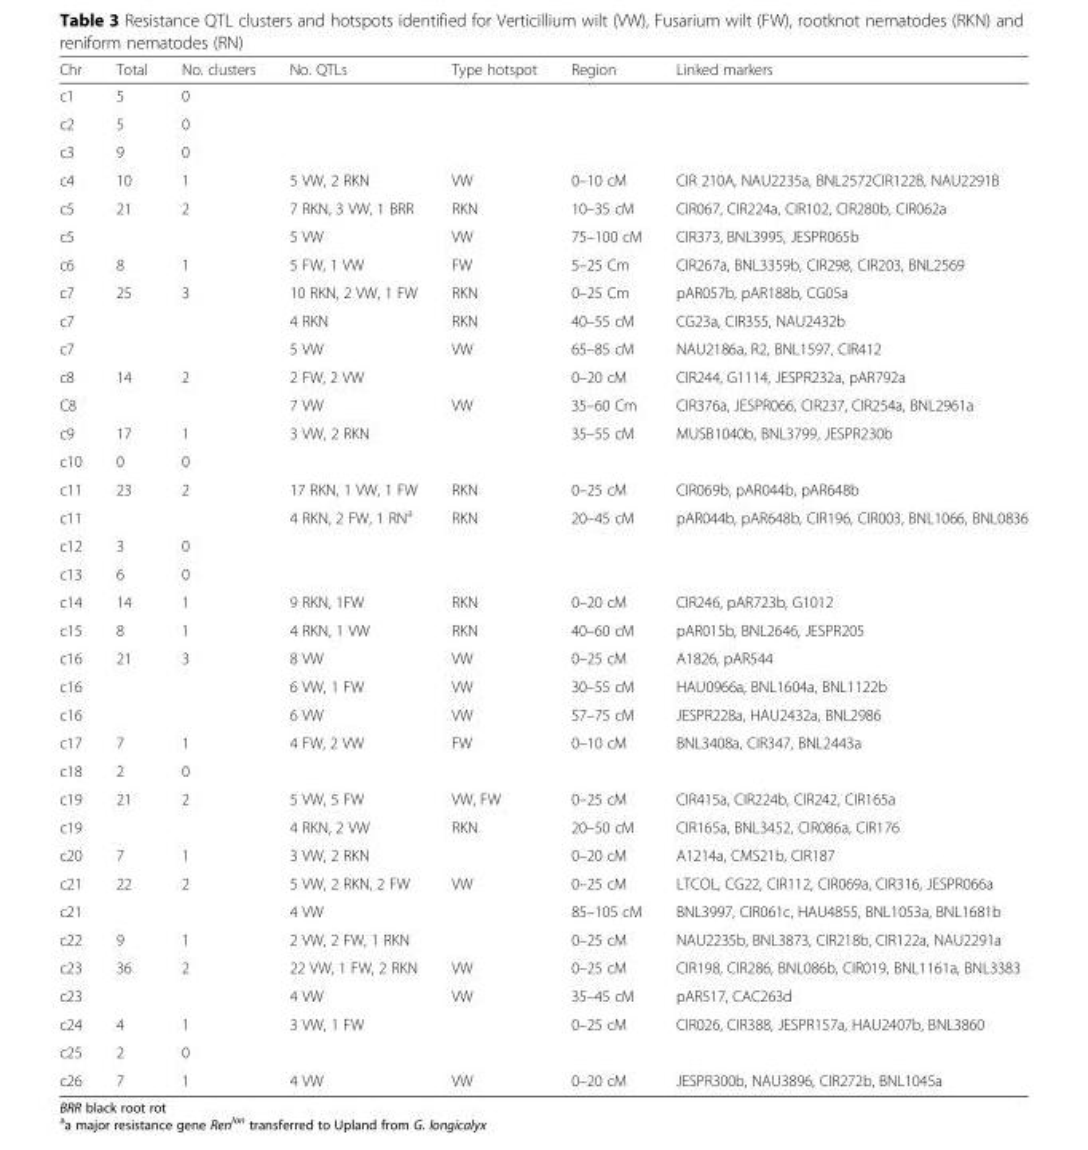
<table><thead><tr><td>Chr</td><td>Total</td><td>No. clusters</td><td>No. QTLs</td><td>Type hotspot</td><td>Region</td><td>Linked markers</td></tr></thead><tbody><tr><td>c1</td><td>5</td><td>0</td><td></td><td></td><td></td><td></td></tr><tr><td>c2</td><td>5</td><td>0</td><td></td><td></td><td></td><td></td></tr><tr><td>c3</td><td>9</td><td>0</td><td></td><td></td><td></td><td></td></tr><tr><td>c4</td><td>10</td><td>1</td><td>5 VW, 2 RKN</td><td>VW</td><td>0–10 cM</td><td>CIR 210A, NAU2235a, BNL2572CIR122B, NAU2291B</td></tr><tr><td>c5</td><td>21</td><td>2</td><td>7 RKN, 3 VW, 1 BRR</td><td>RKN</td><td>10–35 cM</td><td>CIR067, CIR224a, CIR102, CIR280b, CIR062a</td></tr><tr><td>c5</td><td></td><td></td><td>5 VW</td><td>VW</td><td>75–100 cM</td><td>CIR373, BNL3995, JESPR065b</td></tr><tr><td>c6</td><td>8</td><td>1</td><td>5 FW, 1 VW</td><td>FW</td><td>5–25 Cm</td><td>CIR267a, BNL3359b, CIR298, CIR203, BNL2569</td></tr><tr><td>c7</td><td>25</td><td>3</td><td>10 RKN, 2 VW, 1 FW</td><td>RKN</td><td>0–25 Cm</td><td>pAR057b, pAR188b, CG05a</td></tr><tr><td>c7</td><td></td><td></td><td>4 RKN</td><td>RKN</td><td>40–55 cM</td><td>CG23a, CIR355, NAU2432b</td></tr><tr><td>c7</td><td></td><td></td><td>5 VW</td><td>VW</td><td>65–85 cM</td><td>NAU2186a, R2, BNL1597, CIR412</td></tr><tr><td>c8</td><td>14</td><td>2</td><td>2 FW, 2 VW</td><td></td><td>0–20 cM</td><td>CIR244, G1114, JESPR232a, pAR792a</td></tr><tr><td>C8</td><td></td><td></td><td>7 VW</td><td>VW</td><td>35–60 Cm</td><td>CIR376a, JESPR066, CIR237, CIR254a, BNL2961a</td></tr><tr><td>c9</td><td>17</td><td>1</td><td>3 VW, 2 RKN</td><td></td><td>35–55 cM</td><td>MUSB1040b, BNL3799, JESPR230b</td></tr><tr><td>c10</td><td>0</td><td>0</td><td></td><td></td><td></td><td></td></tr><tr><td>c11</td><td>23</td><td>2</td><td>17 RKN, 1 VW, 1 FW</td><td>RKN</td><td>0–25 cM</td><td>CIR069b, pAR044b, pAR648b</td></tr><tr><td>c11</td><td></td><td></td><td>4 RKN, 2 FW, 1 RN<sup>a</sup></td><td>RKN</td><td>20–45 cM</td><td>pAR044b, pAR648b, CIR196, CIR003, BNL1066, BNL0836</td></tr><tr><td>c12</td><td>3</td><td>0</td><td></td><td></td><td></td><td></td></tr><tr><td>c13</td><td>6</td><td>0</td><td></td><td></td><td></td><td></td></tr><tr><td>c14</td><td>14</td><td>1</td><td>9 RKN, 1FW</td><td>RKN</td><td>0–20 cM</td><td>CIR246, pAR723b, G1012</td></tr><tr><td>c15</td><td>8</td><td>1</td><td>4 RKN, 1 VW</td><td>RKN</td><td>40–60 cM</td><td>pAR015b, BNL2646, JESPR205</td></tr><tr><td>c16</td><td>21</td><td>3</td><td>8 VW</td><td>VW</td><td>0–25 cM</td><td>A1826, pAR544</td></tr><tr><td>c16</td><td></td><td></td><td>6 VW, 1 FW</td><td>VW</td><td>30–55 cM</td><td>HAU0966a, BNL1604a, BNL1122b</td></tr><tr><td>c16</td><td></td><td></td><td>6 VW</td><td>VW</td><td>57–75 cM</td><td>JESPR228a, HAU2432a, BNL2986</td></tr><tr><td>c17</td><td>7</td><td>1</td><td>4 FW, 2 VW</td><td>FW</td><td>0–10 cM</td><td>BNL3408a, CIR347, BNL2443a</td></tr><tr><td>c18</td><td>2</td><td>0</td><td></td><td></td><td></td><td></td></tr><tr><td>c19</td><td>21</td><td>2</td><td>5 VW, 5 FW</td><td>VW, FW</td><td>0–25 cM</td><td>CIR415a, CIR224b, CIR242, CIR165a</td></tr><tr><td>c19</td><td></td><td></td><td>4 RKN, 2 VW</td><td>RKN</td><td>20–50 cM</td><td>CIR165a, BNL3452, CIR086a, CIR176</td></tr><tr><td>c20</td><td>7</td><td>1</td><td>3 VW, 2 RKN</td><td></td><td>0–20 cM</td><td>A1214a, CMS21b, CIR187</td></tr><tr><td>c21</td><td>22</td><td>2</td><td>5 VW, 2 RKN, 2 FW</td><td>VW</td><td>0–25 cM</td><td>LTCOL, CG22, CIR112, CIR069a, CIR316, JESPR066a</td></tr><tr><td>c21</td><td></td><td></td><td>4 VW</td><td></td><td>85–105 cM</td><td>BNL3997, CIR061c, HAU4855, BNL1053a, BNL1681b</td></tr><tr><td>c22</td><td>9</td><td>1</td><td>2 VW, 2 FW, 1 RKN</td><td></td><td>0–25 cM</td><td>NAU2235b, BNL3873, CIR218b, CIR122a, NAU2291a</td></tr><tr><td>c23</td><td>36</td><td>2</td><td>22 VW, 1 FW, 2 RKN</td><td>VW</td><td>0–25 cM</td><td>CIR198, CIR286, BNL086b, CIR019, BNL1161a, BNL3383</td></tr><tr><td>c23</td><td></td><td></td><td>4 VW</td><td>VW</td><td>35–45 cM</td><td>pAR517, CAC263d</td></tr><tr><td>c24</td><td>4</td><td>1</td><td>3 VW, 1 FW</td><td></td><td>0–25 cM</td><td>CIR026, CIR388, JESPR157a, HAU2407b, BNL3860</td></tr><tr><td>c25</td><td>2</td><td>0</td><td></td><td></td><td></td><td></td></tr><tr><td>c26</td><td>7</td><td>1</td><td>4 VW</td><td>VW</td><td>0–20 cM</td><td>JESPR300b, NAU3896, CIR272b, BNL1045a</td></tr></tbody></table>